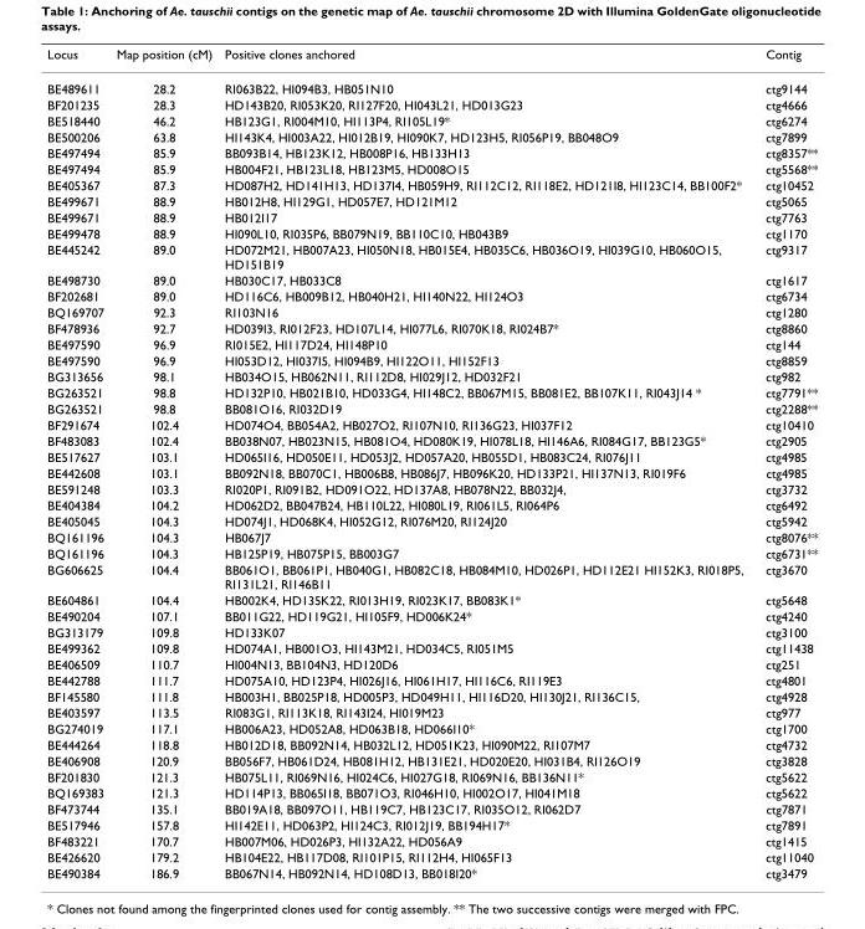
<table><thead><tr><td>Locus</td><td>Map position (cM)</td><td>Positive clones anchored</td><td>Contig</td></tr></thead><tbody><tr><td>BE489611</td><td>28.2</td><td>RI063B22, HI094B3, HB051N10</td><td>ctg9144</td></tr><tr><td>BF201235</td><td>28.3</td><td>HD143B20, RI053K20, RI127F20, HI043L21, HD013G23</td><td>ctg4666</td></tr><tr><td>BE518440</td><td>46.2</td><td>HB123G1, RI004M10, HI113P4, RI105L19*</td><td>ctg6274</td></tr><tr><td>BE500206</td><td>63.8</td><td>HI143K4, HI003A22, HI012B19, HI090K7, HD123H5, RI056P19, BB048O9</td><td>ctg7899</td></tr><tr><td>BE497494</td><td>85.9</td><td>BB093B14, HB123K12, HB008P16, HB133H13</td><td>ctg8357**</td></tr><tr><td>BE497494</td><td>85.9</td><td>HB004F21, HB123L18, HB123M5, HD008O15</td><td>ctg5568**</td></tr><tr><td>BE405367</td><td>87.3</td><td>HD087H2, HD141H13, HD137I4, HB059H9, RI112C12, RI118E2, HD121I8, HI123C14, BB100F2*</td><td>ctg10452</td></tr><tr><td>BE499671</td><td>88.9</td><td>HB012H8, HI129G1, HD057E7, HD121M12</td><td>ctg5065</td></tr><tr><td>BE499671</td><td>88.9</td><td>HB012I17</td><td>ctg7763</td></tr><tr><td>BE499478</td><td>88.9</td><td>HI090L10, RI035P6, BB079N19, BB110C10, HB043B9</td><td>ctg1170</td></tr><tr><td>BE445242</td><td>89.0</td><td>HD072M21, HB007A23, HI050N18, HB015E4, HB035C6, HB036O19, HI039G10, HB060O15, HD151B19</td><td>ctg9317</td></tr><tr><td>BE498730</td><td>89.0</td><td>HB030C17, HB033C8</td><td>ctg1617</td></tr><tr><td>BF202681</td><td>89.0</td><td>HD116C6, HB009B12, HB040H21, HI140N22, HI124O3</td><td>ctg6734</td></tr><tr><td>BQ169707</td><td>92.3</td><td>RI103N16</td><td>ctg1280</td></tr><tr><td>BF478936</td><td>92.7</td><td>HD039I3, RI012F23, HD107L14, HI077L6, RI070K18, RI024B7*</td><td>ctg8860</td></tr><tr><td>BE497590</td><td>96.9</td><td>RI015E2, HI117D24, HI148P10</td><td>ctg144</td></tr><tr><td>BE497590</td><td>96.9</td><td>HI053D12, HI037I5, HI094B9, HI122O11, HI152F13</td><td>ctg8859</td></tr><tr><td>BG313656</td><td>98.1</td><td>HB034O15, HB062N11, RI112D8, HI029J12, HD032F21</td><td>ctg982</td></tr><tr><td>BG263521</td><td>98.8</td><td>HD132P10, HB021B10, HD033G4, HI148C2, BB067M15, BB081E2, BB107K11, RI043J14 *</td><td>ctg7791**</td></tr><tr><td>BG263521</td><td>98.8</td><td>BB081O16, RI032D19</td><td>ctg2288**</td></tr><tr><td>BF291674</td><td>102.4</td><td>HD074O4, BB054A2, HB027O2, RI107N10, RI136G23, HI037F12</td><td>ctg10410</td></tr><tr><td>BF483083</td><td>102.4</td><td>BB038N07, HB023N15, HB081O4, HD080K19, HI078L18, HI146A6, RI084G17, BB123G5*</td><td>ctg2905</td></tr><tr><td>BE517627</td><td>103.1</td><td>HD065I16, HD050E11, HD053J2, HD057A20, HB055D1, HB083C24, RI076J11</td><td>ctg4985</td></tr><tr><td>BE442608</td><td>103.1</td><td>BB092N18, BB070C1, HB006B8, HB086J7, HB096K20, HD133P21, HI137N13, RI019F6</td><td>ctg4985</td></tr><tr><td>BE591248</td><td>103.3</td><td>RI020P1, RI091B2, HD091O22, HD137A8, HB078N22, BB032J4,</td><td>ctg3732</td></tr><tr><td>BE404384</td><td>104.2</td><td>HD062D2, BB047B24, HB110L22, HI080L19, RI061L5, RI064P6</td><td>ctg6492</td></tr><tr><td>BE405045</td><td>104.3</td><td>HD074J1, HD068K4, HI052G12, RI076M20, RI124J20</td><td>ctg5942</td></tr><tr><td>BQ161196</td><td>104.3</td><td>HB067J7</td><td>ctg8076**</td></tr><tr><td>BQ161196</td><td>104.3</td><td>HB125P19, HB075P15, BB003G7</td><td>ctg6731**</td></tr><tr><td>BG606625</td><td>104.4</td><td>BB061O1, BB061P1, HB040G1, HB082C18, HB084M10, HD026P1, HD112E21 HI152K3, RI018P5, RI131L21, RI146B11</td><td>ctg3670</td></tr><tr><td>BE604861</td><td>104.4</td><td>HB002K4, HD135K22, RI013H19, RI023K17, BB083K1*</td><td>ctg5648</td></tr><tr><td>BE490204</td><td>107.1</td><td>BB011G22, HD119G21, HI105F9, HD006K24*</td><td>ctg4240</td></tr><tr><td>BG313179</td><td>109.8</td><td>HD133K07</td><td>ctg3100</td></tr><tr><td>BE499362</td><td>109.8</td><td>HD074A1, HB001O3, HI143M21, HD034C5, RI051M5</td><td>ctg11438</td></tr><tr><td>BE406509</td><td>110.7</td><td>HI004N13, BB104N3, HD120D6</td><td>ctg251</td></tr><tr><td>BE442788</td><td>111.7</td><td>HD075A10, HD123P4, HI026J16, HI061H17, HI116C6, RI119E3</td><td>ctg4801</td></tr><tr><td>BF145580</td><td>111.8</td><td>HB003H1, BB025P18, HD005P3, HD049H11, HI116D20, HI130J21, RI136C15,</td><td>ctg4928</td></tr><tr><td>BE403597</td><td>113.5</td><td>RI083G1, RI113K18, RI143I24, HI019M23</td><td>ctg977</td></tr><tr><td>BG274019</td><td>117.1</td><td>HB006A23, HD052A8, HD063B18, HD066I10*</td><td>ctg1700</td></tr><tr><td>BE444264</td><td>118.8</td><td>HB012D18, BB092N14, HB032L12, HD051K23, HI090M22, RI107M7</td><td>ctg4732</td></tr><tr><td>BE406908</td><td>120.9</td><td>BB056F7, HB061D24, HB081H12, HB131E21, HD020E20, HI031B4, RI126O19</td><td>ctg3828</td></tr><tr><td>BF201830</td><td>121.3</td><td>HB075L11, RI069N16, HI024C6, HI027G18, RI069N16, BB136N11*</td><td>ctg5622</td></tr><tr><td>BQ169383</td><td>121.3</td><td>HD114P13, BB065I18, BB071O3, RI046H10, HI002O17, HI041M18</td><td>ctg5622</td></tr><tr><td>BF473744</td><td>135.1</td><td>BB019A18, BB097O11, HB119C7, HB123C17, RI035O12, RI062D7</td><td>ctg7871</td></tr><tr><td>BE517946</td><td>157.8</td><td>HI142E11, HD063P2, HI124C3, RI012J19, BB194H17*</td><td>ctg7891</td></tr><tr><td>BF483221</td><td>170.7</td><td>HB007M06, HD026P3, HI132A22, HD056A9</td><td>ctg1415</td></tr><tr><td>BE426620</td><td>179.2</td><td>HB104E22, HB117D08, RI101P15, RI112H4, HI065F13</td><td>ctg11040</td></tr><tr><td>BE490384</td><td>186.9</td><td>BB067N14, HB092N14, HD108D13, BB018I20*</td><td>ctg3479</td></tr></tbody></table>